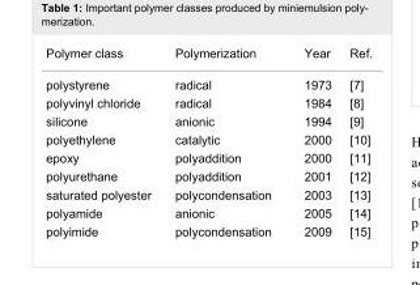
<table><tbody><tr><td>Polymer class</td><td>Polymerization</td><td>Year</td><td>Ref.</td></tr><tr><td>polystyrene</td><td>radical</td><td>1973</td><td>[7]</td></tr><tr><td>polyvinyl chloride</td><td>radical</td><td>1984</td><td>[8]</td></tr><tr><td>silicone</td><td>anionic</td><td>1994</td><td>[9]</td></tr><tr><td>polyethylene</td><td>catalytic</td><td>2000</td><td>[10]</td></tr><tr><td>epoxy</td><td>polyaddition</td><td>2000</td><td>[11]</td></tr><tr><td>polyurethane</td><td>polyaddition</td><td>2001</td><td>[12]</td></tr><tr><td>saturated polyester</td><td>polycondensation</td><td>2003</td><td>[13]</td></tr><tr><td>polyamide</td><td>anionic</td><td>2005</td><td>[14]</td></tr><tr><td>polyimide</td><td>polycondensation</td><td>2009</td><td>[15]</td></tr></tbody></table>